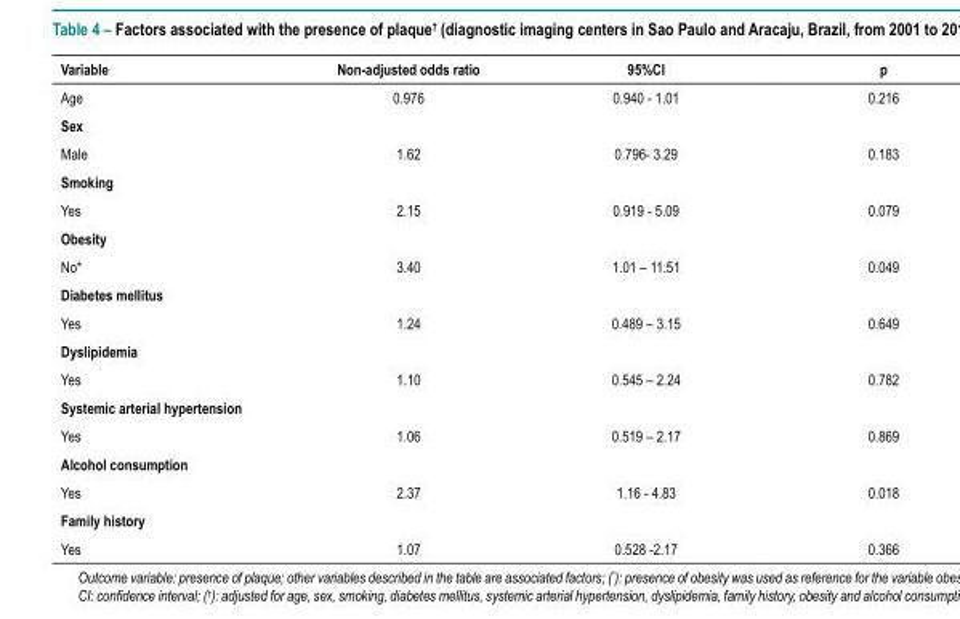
<table><thead><tr><td>Variable</td><td>Non-adjusted odds ratio</td><td>95%CI</td><td>p</td></tr></thead><tbody><tr><td>Age</td><td>0.976</td><td>0.940 - 1.01</td><td>0.216</td></tr><tr><td colspan="4">Sex</td></tr><tr><td>Male</td><td>1.62</td><td>0.796- 3.29</td><td>0.183</td></tr><tr><td colspan="4">Smoking</td></tr><tr><td>Yes</td><td>2.15</td><td>0.919 - 5.09</td><td>0.079</td></tr><tr><td colspan="4">Obesity</td></tr><tr><td>No*</td><td>3.40</td><td>1.01 – 11.51</td><td>0.049</td></tr><tr><td colspan="4">Diabetes mellitus</td></tr><tr><td>Yes</td><td>1.24</td><td>0.489 – 3.15</td><td>0.649</td></tr><tr><td colspan="4">Dyslipidemia</td></tr><tr><td>Yes</td><td>1.10</td><td>0.545 – 2.24</td><td>0.782</td></tr><tr><td colspan="4">Systemic arterial hypertension</td></tr><tr><td>Yes</td><td>1.06</td><td>0.519 – 2.17</td><td>0.869</td></tr><tr><td colspan="4">Alcohol consumption</td></tr><tr><td>Yes</td><td>2.37</td><td>1.16 - 4.83</td><td>0.018</td></tr><tr><td colspan="4">Family history</td></tr><tr><td>Yes</td><td>1.07</td><td>0.528 -2.17</td><td>0.366</td></tr></tbody></table>